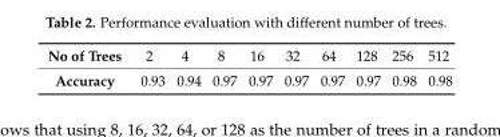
<table><tbody><tr><td>No of Trees</td><td>2</td><td>4</td><td>8</td><td>16</td><td>32</td><td>64</td><td>128</td><td>256</td><td>512</td></tr><tr><td>Accuracy</td><td>0.93</td><td>0.94</td><td>0.97</td><td>0.97</td><td>0.97</td><td>0.97</td><td>0.97</td><td>0.98</td><td>0.98</td></tr></tbody></table>